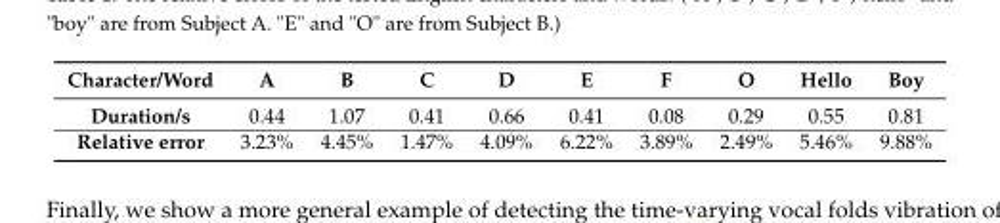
<table><thead><tr><td>Character/Word</td><td>A</td><td>B</td><td>C</td><td>D</td><td>E</td><td>F</td><td>O</td><td>Hello</td><td>Boy</td></tr></thead><tbody><tr><td>Duration/s</td><td>0.44</td><td>1.07</td><td>0.41</td><td>0.66</td><td>0.41</td><td>0.08</td><td>0.29</td><td>0.55</td><td>0.81</td></tr><tr><td>Relative error</td><td>3.23%</td><td>4.45%</td><td>1.47%</td><td>4.09%</td><td>6.22%</td><td>3.89%</td><td>2.49%</td><td>5.46%</td><td>9.88%</td></tr></tbody></table>